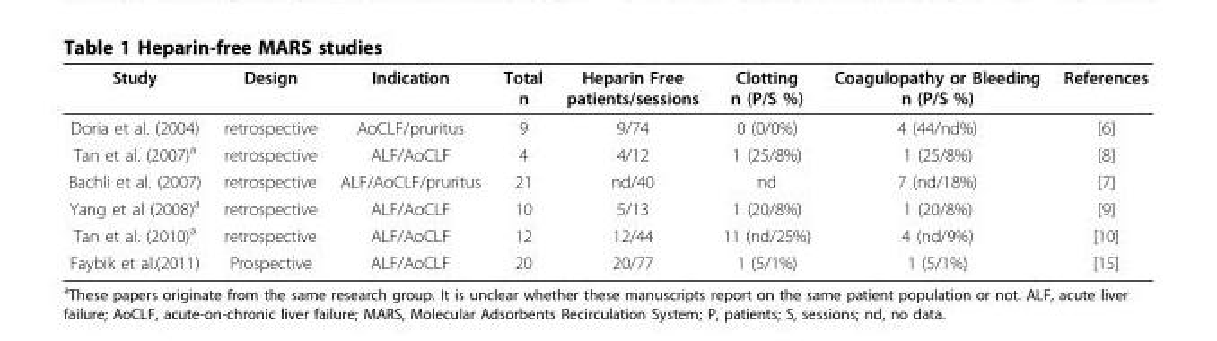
<table><thead><tr><td>Study</td><td>Design</td><td>Indication</td><td>Total n</td><td>Heparin Free patients/sessions</td><td>Clotting n (P/S %)</td><td>Coagulopathy or Bleeding n (P/S %)</td><td>References</td></tr></thead><tbody><tr><td>Doria et al. (2004)</td><td>retrospective</td><td>AoCLF/pruritus</td><td>9</td><td>9/74</td><td>0 (0/0%)</td><td>4 (44/nd%)</td><td>[6]</td></tr><tr><td>Tan et al. (2007)<sup>a</sup></td><td>retrospective</td><td>ALF/AoCLF</td><td>4</td><td>4/12</td><td>1 (25/8%)</td><td>1 (25/8%)</td><td>[8]</td></tr><tr><td>Bachli et al. (2007)</td><td>retrospective</td><td>ALF/AoCLF/pruritus</td><td>21</td><td>nd/40</td><td>nd</td><td>7 (nd/18%)</td><td>[7]</td></tr><tr><td>Yang et al (2008)<sup>a</sup></td><td>retrospective</td><td>ALF/AoCLF</td><td>10</td><td>5/13</td><td>1 (20/8%)</td><td>1 (20/8%)</td><td>[9]</td></tr><tr><td>Tan et al. (2010)<sup>a</sup></td><td>retrospective</td><td>ALF/AoCLF</td><td>12</td><td>12/44</td><td>11 (nd/25%)</td><td>4 (nd/9%)</td><td>[10]</td></tr><tr><td>Faybik et al.(2011)</td><td>Prospective</td><td>ALF/AoCLF</td><td>20</td><td>20/77</td><td>1 (5/1%)</td><td>1 (5/1%)</td><td>[15]</td></tr></tbody></table>